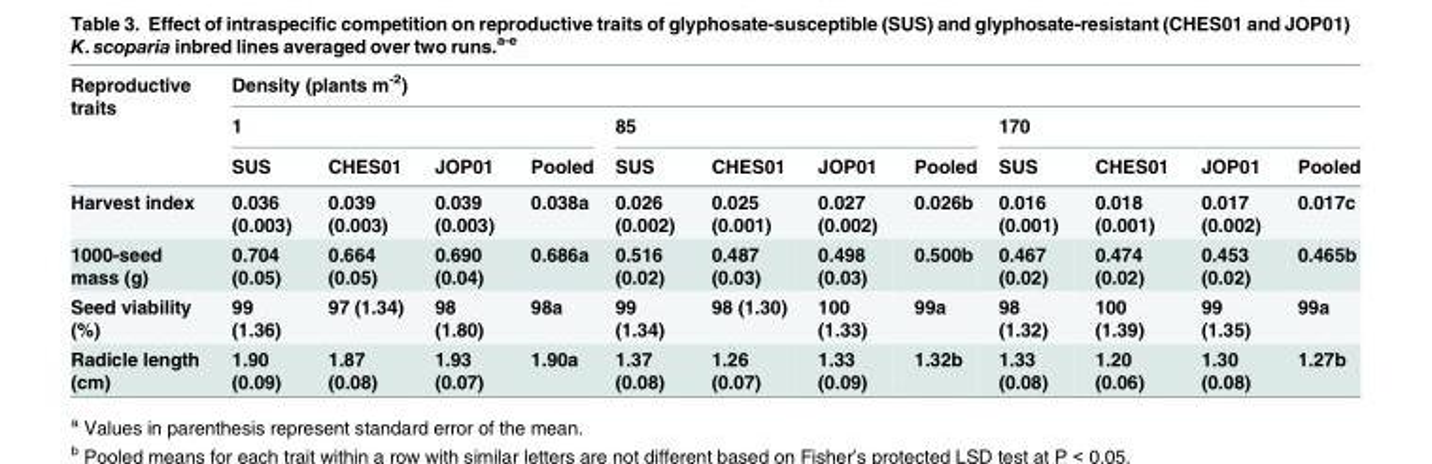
<table><thead><tr><td rowspan="3">Reproductive traits</td><td colspan="12">Density (plants m<sup>-2</sup>)</td></tr><tr><td colspan="4">1</td><td colspan="4">85</td><td colspan="4">170</td></tr><tr><td>SUS</td><td>CHES01</td><td>JOP01</td><td>Pooled</td><td>SUS</td><td>CHES01</td><td>JOP01</td><td>Pooled</td><td>SUS</td><td>CHES01</td><td>JOP01</td><td>Pooled</td></tr></thead><tbody><tr><td>Harvest index</td><td>0.036 (0.003)</td><td>0.039 (0.003)</td><td>0.039 (0.003)</td><td>0.038<sup>a</sup></td><td>0.026 (0.002)</td><td>0.025 (0.001)</td><td>0.027 (0.002)</td><td>0.026<sup>b</sup></td><td>0.016 (0.001)</td><td>0.018 (0.001)</td><td>0.017 (0.002)</td><td>0.017<sup>c</sup></td></tr><tr><td>1000-seed mass (g)</td><td>0.704 (0.05)</td><td>0.664 (0.05)</td><td>0.690 (0.04)</td><td>0.686<sup>a</sup></td><td>0.516 (0.02)</td><td>0.487 (0.03)</td><td>0.498 (0.03)</td><td>0.500<sup>b</sup></td><td>0.467 (0.02)</td><td>0.474 (0.02)</td><td>0.453 (0.02)</td><td>0.465<sup>b</sup></td></tr><tr><td>Seed viability (%)</td><td>99 (1.36)</td><td>97 (1.34)</td><td>98 (1.80)</td><td>98<sup>a</sup></td><td>99 (1.34)</td><td>98 (1.30)</td><td>100 (1.33)</td><td>99<sup>a</sup></td><td>98 (1.32)</td><td>100 (1.39)</td><td>99 (1.35)</td><td>99<sup>a</sup></td></tr><tr><td>Radicle length (cm)</td><td>1.90 (0.09)</td><td>1.87 (0.08)</td><td>1.93 (0.07)</td><td>1.90<sup>a</sup></td><td>1.37 (0.08)</td><td>1.26 (0.07)</td><td>1.33 (0.09)</td><td>1.32<sup>b</sup></td><td>1.33 (0.08)</td><td>1.20 (0.06)</td><td>1.30 (0.08)</td><td>1.27<sup>b</sup></td></tr></tbody></table>